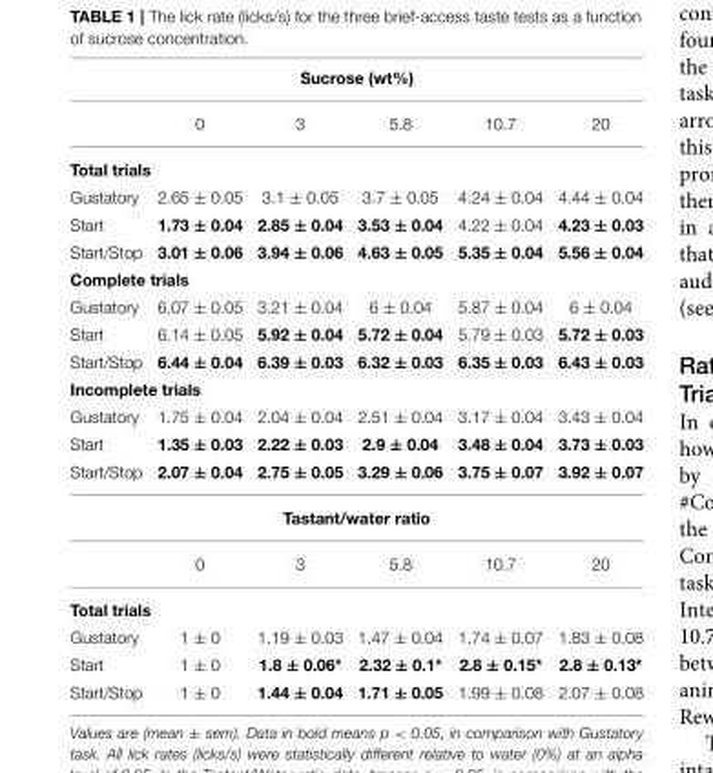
<table><thead><tr><td colspan="6">Sucrose (wt%)</td></tr><tr><td></td><td>0</td><td>3</td><td>5.8</td><td>10.7</td><td>20</td></tr></thead><tbody><tr><td colspan="6">Total trials</td></tr><tr><td>Gustatory</td><td>2.65 ± 0.05</td><td>3.1 ± 0.05</td><td>3.7 ± 0.05</td><td>4.24 ± 0.04</td><td>4.44 ± 0.04</td></tr><tr><td>Start</td><td>1.73 ± 0.04</td><td>2.85 ± 0.04</td><td>3.53 ± 0.04</td><td>4.22 ± 0.04</td><td>4.23 ± 0.03</td></tr><tr><td>Start/Stop</td><td>3.01 ± 0.06</td><td>3.94 ± 0.06</td><td>4.63 ± 0.05</td><td>5.35 ± 0.04</td><td>5.56 ± 0.04</td></tr><tr><td colspan="6">Complete trials</td></tr><tr><td>Gustatory</td><td>6.07 ± 0.05</td><td>3.21 ± 0.04</td><td>6 ± 0.04</td><td>5.87 ± 0.04</td><td>6 ± 0.04</td></tr><tr><td>Start</td><td>6.14 ± 0.05</td><td>5.92 ± 0.04</td><td>5.72 ± 0.04</td><td>5.79 ± 0.03</td><td>5.72 ± 0.03</td></tr><tr><td>Start/Stop</td><td>6.44 ± 0.04</td><td>6.39 ± 0.03</td><td>6.32 ± 0.03</td><td>6.35 ± 0.03</td><td>6.43 ± 0.03</td></tr><tr><td colspan="6">Incomplete trials</td></tr><tr><td>Gustatory</td><td>1.75 ± 0.04</td><td>2.04 ± 0.04</td><td>2.51 ± 0.04</td><td>3.17 ± 0.04</td><td>3.43 ± 0.04</td></tr><tr><td>Start</td><td>1.35 ± 0.03</td><td>2.22 ± 0.03</td><td>2.9 ± 0.04</td><td>3.48 ± 0.04</td><td>3.73 ± 0.03</td></tr><tr><td>Start/Stop</td><td>2.07 ± 0.04</td><td>2.75 ± 0.05</td><td>3.29 ± 0.06</td><td>3.75 ± 0.07</td><td>3.92 ± 0.07</td></tr><tr><td colspan="6">Tastant/water ratio</td></tr><tr><td></td><td>0</td><td>3</td><td>5.8</td><td>10.7</td><td>20</td></tr><tr><td colspan="6">Total trials</td></tr><tr><td>Gustatory</td><td>1 ± 0</td><td>1.19 ± 0.03</td><td>1.47 ± 0.04</td><td>1.74 ± 0.07</td><td>1.83 ± 0.08</td></tr><tr><td>Start</td><td>1 ± 0</td><td>1.8 ± 0.06*</td><td>2.32 ± 0.1*</td><td>2.8 ± 0.15*</td><td>2.8 ± 0.13*</td></tr><tr><td>Start/Stop</td><td>1 ± 0</td><td>1.44 ± 0.04</td><td>1.71 ± 0.05</td><td>1.99 ± 0.08</td><td>2.07 ± 0.08</td></tr></tbody></table>